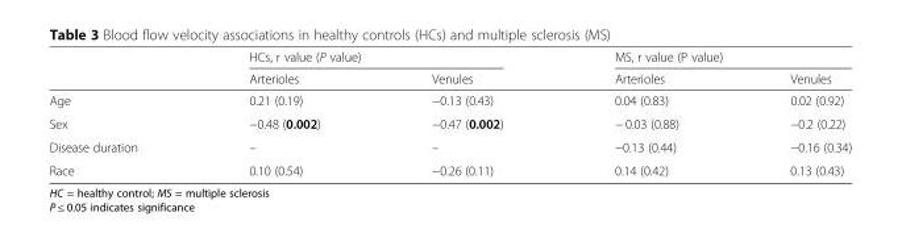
<table><thead><tr><td rowspan="2"></td><td colspan="2">HCs, r value (P value)</td><td colspan="2">MS, r value (P value)</td></tr><tr><td>Arterioles</td><td>Venules</td><td>Arterioles</td><td>Venules</td></tr></thead><tbody><tr><td>Age</td><td>0.21 (0.19)</td><td>−0.13 (0.43)</td><td>0.04 (0.83)</td><td>0.02 (0.92)</td></tr><tr><td>Sex</td><td>−0.48 (0.002)</td><td>−0.47 (0.002)</td><td>− 0.03 (0.88)</td><td>−0.2 (0.22)</td></tr><tr><td>Disease duration</td><td>–</td><td>–</td><td>−0.13 (0.44)</td><td>−0.16 (0.34)</td></tr><tr><td>Race</td><td>0.10 (0.54)</td><td>−0.26 (0.11)</td><td>0.14 (0.42)</td><td>0.13 (0.43)</td></tr></tbody></table>